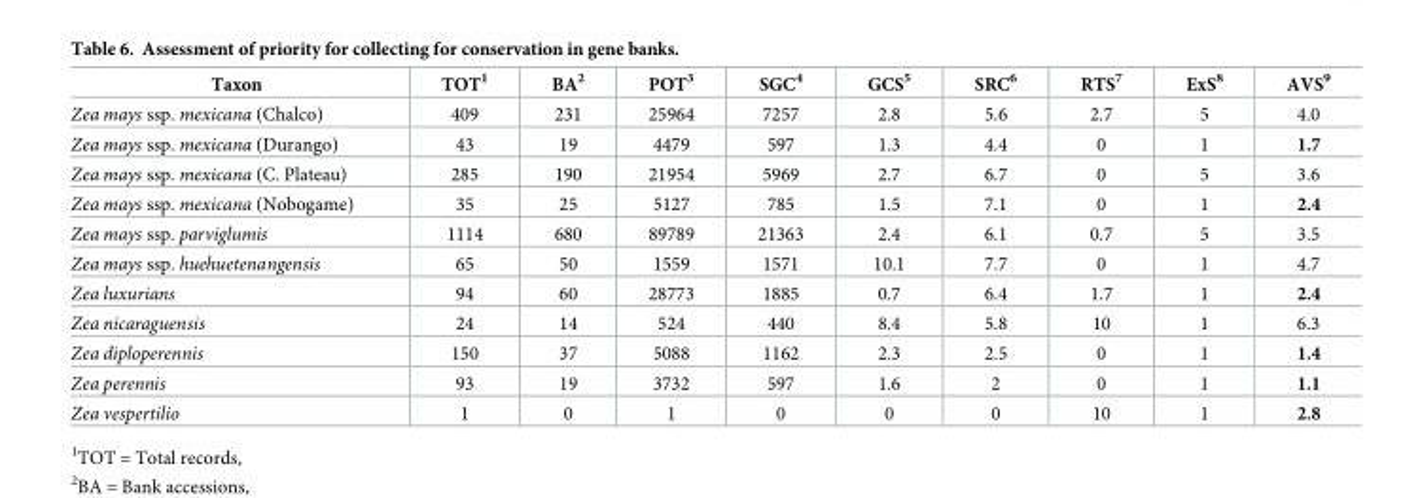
<table><thead><tr><td>Taxon</td><td>TOT<sup>1</sup></td><td>BA<sup>2</sup></td><td>POT<sup>3</sup></td><td>SGC<sup>4</sup></td><td>GCS<sup>5</sup></td><td>SRC<sup>6</sup></td><td>RTS<sup>7</sup></td><td>ExS<sup>8</sup></td><td>AVS<sup>9</sup></td></tr></thead><tbody><tr><td>Zea mays ssp. mexicana (Chalco)</td><td>409</td><td>231</td><td>25964</td><td>7257</td><td>2.8</td><td>5.6</td><td>2.7</td><td>5</td><td>4.0</td></tr><tr><td>Zea mays ssp. mexicana (Durango)</td><td>43</td><td>19</td><td>4479</td><td>597</td><td>1.3</td><td>4.4</td><td>0</td><td>1</td><td>1.7</td></tr><tr><td>Zea mays ssp. mexicana (C. Plateau)</td><td>285</td><td>190</td><td>21954</td><td>5969</td><td>2.7</td><td>6.7</td><td>0</td><td>5</td><td>3.6</td></tr><tr><td>Zea mays ssp. mexicana (Nobogame)</td><td>35</td><td>25</td><td>5127</td><td>785</td><td>1.5</td><td>7.1</td><td>0</td><td>1</td><td>2.4</td></tr><tr><td>Zea mays ssp. parviglumis</td><td>1114</td><td>680</td><td>89789</td><td>21363</td><td>2.4</td><td>6.1</td><td>0.7</td><td>5</td><td>3.5</td></tr><tr><td>Zea mays ssp. huehuetenangensis</td><td>65</td><td>50</td><td>1559</td><td>1571</td><td>10.1</td><td>7.7</td><td>0</td><td>1</td><td>4.7</td></tr><tr><td>Zea luxurians</td><td>94</td><td>60</td><td>28773</td><td>1885</td><td>0.7</td><td>6.4</td><td>1.7</td><td>1</td><td>2.4</td></tr><tr><td>Zea nicaraguensis</td><td>24</td><td>14</td><td>524</td><td>440</td><td>8.4</td><td>5.8</td><td>10</td><td>1</td><td>6.3</td></tr><tr><td>Zea diploperennis</td><td>150</td><td>37</td><td>5088</td><td>1162</td><td>2.3</td><td>2.5</td><td>0</td><td>1</td><td>1.4</td></tr><tr><td>Zea perennis</td><td>93</td><td>19</td><td>3732</td><td>597</td><td>1.6</td><td>2</td><td>0</td><td>1</td><td>1.1</td></tr><tr><td>Zea vespertilio</td><td>1</td><td>0</td><td>1</td><td>0</td><td>0</td><td>0</td><td>10</td><td>1</td><td>2.8</td></tr></tbody></table>